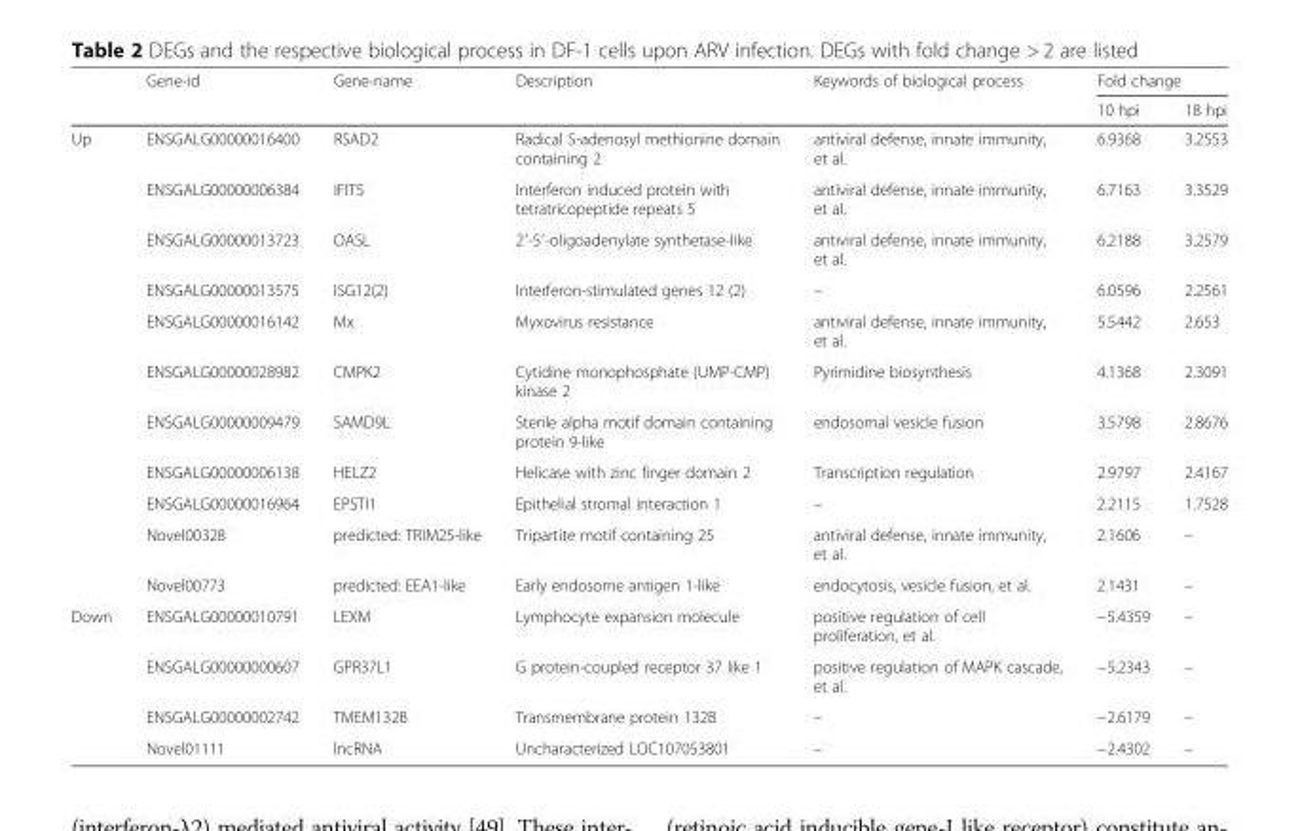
<table><thead><tr><td rowspan="2"></td><td rowspan="2">Gene-id</td><td rowspan="2">Gene-name</td><td rowspan="2">Description</td><td rowspan="2">Keywords of biological process</td><td colspan="2">Fold change</td></tr><tr><td>10 hpi</td><td>18 hpi</td></tr></thead><tbody><tr><td rowspan="11">Up</td><td>ENSGALG00000016400</td><td>RSAD2</td><td>Radical S-adenosyl methionine domain containing 2</td><td>antiviral defense, innate immunity, et al.</td><td>6.9368</td><td>3.2553</td></tr><tr><td>ENSGALG00000006384</td><td>IFIT5</td><td>Interferon induced protein with tetratricopeptide repeats 5</td><td>antiviral defense, innate immunity, et al.</td><td>6.7163</td><td>3.3529</td></tr><tr><td>ENSGALG00000013723</td><td>OASL</td><td>2′-5′-oligoadenylate synthetase-like</td><td>antiviral defense, innate immunity, et al.</td><td>6.2188</td><td>3.2579</td></tr><tr><td>ENSGALG00000013575</td><td>ISG12(2)</td><td>Interferon-stimulated genes 12 (2)</td><td>–</td><td>6.0596</td><td>2.2561</td></tr><tr><td>ENSGALG00000016142</td><td>Mx</td><td>Myxovirus resistance</td><td>antiviral defense, innate immunity, et al.</td><td>5.5442</td><td>2.653</td></tr><tr><td>ENSGALG00000028982</td><td>CMPK2</td><td>Cytidine monophosphate (UMP-CMP) kinase 2</td><td>Pyrimidine biosynthesis</td><td>4.1368</td><td>2.3091</td></tr><tr><td>ENSGALG00000009479</td><td>SAMD9L</td><td>Sterile alpha motif domain containing protein 9-like</td><td>endosomal vesicle fusion</td><td>3.5798</td><td>2.8676</td></tr><tr><td>ENSGALG00000006138</td><td>HELZ2</td><td>Helicase with zinc finger domain 2</td><td>Transcription regulation</td><td>2.9797</td><td>2.4167</td></tr><tr><td>ENSGALG00000016964</td><td>EPSTI1</td><td>Epithelial stromal interaction 1</td><td>–</td><td>2.2115</td><td>1.7528</td></tr><tr><td>Novel00328</td><td>predicted: TRIM25-like</td><td>Tripartite motif containing 25</td><td>antiviral defense, innate immunity, et al.</td><td>2.1606</td><td>–</td></tr><tr><td>Novel00773</td><td>predicted: EEA1-like</td><td>Early endosome antigen 1-like</td><td>endocytosis, vesicle fusion, et al.</td><td>2.1431</td><td>–</td></tr><tr><td rowspan="4">Down</td><td>ENSGALG00000010791</td><td>LEXM</td><td>Lymphocyte expansion molecule</td><td>positive regulation of cell proliferation, et al.</td><td>−5.4359</td><td>–</td></tr><tr><td>ENSGALG00000000607</td><td>GPR37L1</td><td>G protein-coupled receptor 37 like 1</td><td>positive regulation of MAPK cascade, et al.</td><td>−5.2343</td><td>–</td></tr><tr><td>ENSGALG00000002742</td><td>TMEM132B</td><td>Transmembrane protein 132B</td><td>–</td><td>−2.6179</td><td>–</td></tr><tr><td>Novel01111</td><td>lncRNA</td><td>Uncharacterized LOC107053801</td><td>–</td><td>−2.4302</td><td>–</td></tr></tbody></table>